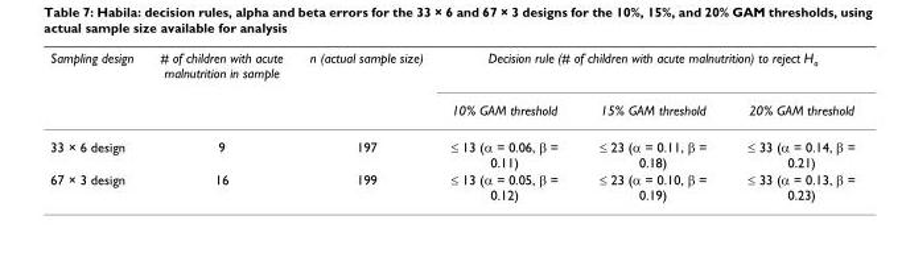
<table><thead><tr><td rowspan="2">Sampling design</td><td rowspan="2"># of children with acute malnutrition in sample</td><td rowspan="2">n (actual sample size)</td><td colspan="3">Decision rule (# of children with acute malnutrition) to reject H<sub>o</sub></td></tr><tr><td>10% GAM threshold</td><td>15% GAM threshold</td><td>20% GAM threshold</td></tr></thead><tbody><tr><td>33 × 6 design</td><td>9</td><td>197</td><td>≤ 13 (α = 0.06, β = 0.11)</td><td>≤ 23 (α = 0.11, β = 0.18)</td><td>≤ 33 (α = 0.14, β = 0.21)</td></tr><tr><td>67 × 3 design</td><td>16</td><td>199</td><td>≤ 13 (α = 0.05, β = 0.12)</td><td>≤ 23 (α = 0.10, β = 0.19)</td><td>≤ 33 (α = 0.13, β = 0.23)</td></tr></tbody></table>